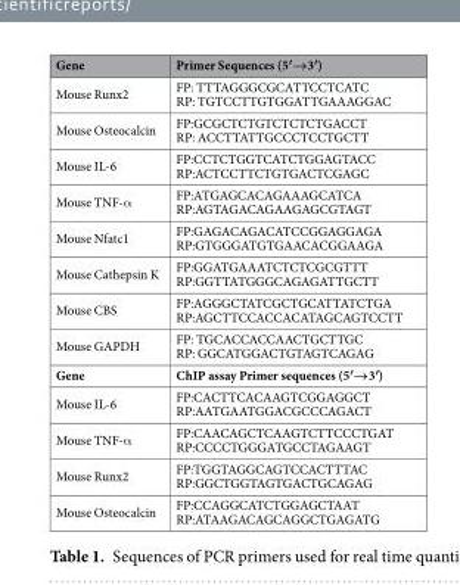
<table><thead><tr><td>Gene</td><td>Primer Sequences (5′→3′)</td></tr></thead><tbody><tr><td>Mouse Runx2</td><td>FP: TTTAGGGCGCATTCCTCATC RP: TGTCCTTGTGGATTGAAAGGAC</td></tr><tr><td>Mouse Osteocalcin</td><td>FP:GCGCTCTGTCTCTCTGACCT RP: ACCTTATTGCCCTCCTGCTT</td></tr><tr><td>Mouse IL-6</td><td>FP:CCTCTGGTCATCTGGAGTACC RP:ACTCCTTCTGTGACTCGAGC</td></tr><tr><td>Mouse TNF-α</td><td>FP:ATGAGCACAGAAAGCATCA RP:AGTAGACAGAAGAGCGTAGT</td></tr><tr><td>Mouse Nfatc1</td><td>FP:GAGACAGACATCCGGAGGAGA RP:GTGGGATGTGAACACGGAAGA</td></tr><tr><td>Mouse Cathepsin K</td><td>FP:GGATGAAATCTCTCGCGTTT RP:GGTTATGGGCAGAGATTGCTT</td></tr><tr><td>Mouse CBS</td><td>FP:AGGGCTATCGCTGCATTATCTGA RP:AGCTTCCACCACATAGCAGTCCTT</td></tr><tr><td>Mouse GAPDH</td><td>FP: TGCACCACCAACTGCTTGC RP: GGCATGGACTGTAGTCAGAG</td></tr><tr><td>Gene</td><td>ChIP assay Primer sequences (5′→3′)</td></tr><tr><td>Mouse IL-6</td><td>FP:CACTTCACAAGTCGGAGGCT RP:AATGAATGGACGCCCAGACT</td></tr><tr><td>Mouse TNF-α</td><td>FP:CAACAGCTCAAGTCTTCCCTGAT RP:CCCCTGGGATGCCTAGAAGT</td></tr><tr><td>Mouse Runx2</td><td>FP:TGGTAGGCAGTCCACTTTAC RP:GGCTGGTAGTGACTGCAGAG</td></tr><tr><td>Mouse Osteocalcin</td><td>FP:CCAGGCATCTGGAGCTAAT RP:ATAAGACAGCAGGCTGAGATG</td></tr></tbody></table>